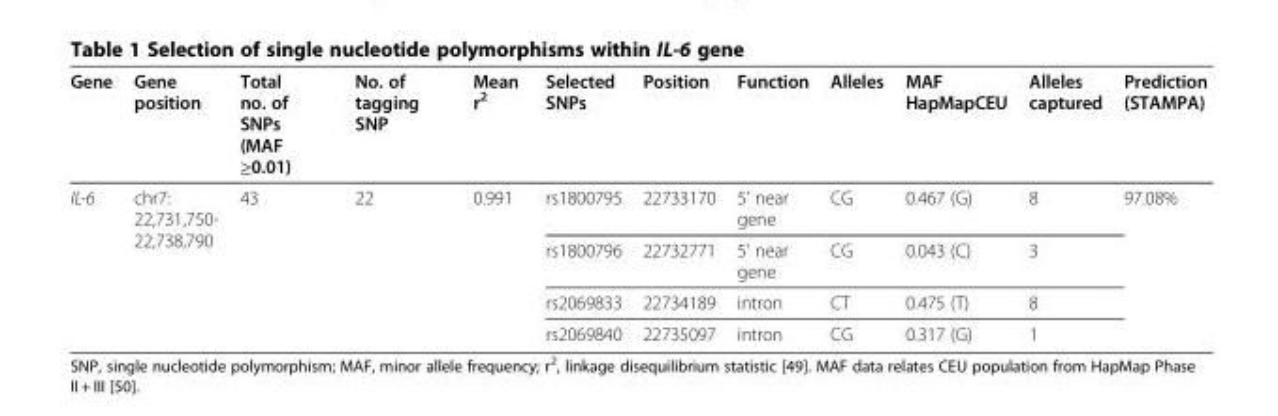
<table><thead><tr><td>Gene</td><td>Gene position</td><td>Total no. of SNPs (MAF ≥0.01)</td><td>No. of tagging SNP</td><td>Mean r<sup>2</sup></td><td>Selected SNPs</td><td>Position</td><td>Function</td><td>Alleles</td><td>MAF HapMapCEU</td><td>Alleles captured</td><td>Prediction (STAMPA)</td></tr></thead><tbody><tr><td rowspan="4">IL-6</td><td rowspan="4">chr7: 22,731,750- 22,738,790</td><td rowspan="4">43</td><td rowspan="4">22</td><td rowspan="4">0.991</td><td>rs1800795</td><td>22733170</td><td>5&#x27; near gene</td><td>CG</td><td>0.467 (G)</td><td>8</td><td rowspan="4">97.08%</td></tr><tr><td>rs1800796</td><td>22732771</td><td>5&#x27; near gene</td><td>CG</td><td>0.043 (C)</td><td>3</td></tr><tr><td>rs2069833</td><td>22734189</td><td>intron</td><td>CT</td><td>0.475 (T)</td><td>8</td></tr><tr><td>rs2069840</td><td>22735097</td><td>intron</td><td>CG</td><td>0.317 (G)</td><td>1</td></tr></tbody></table>